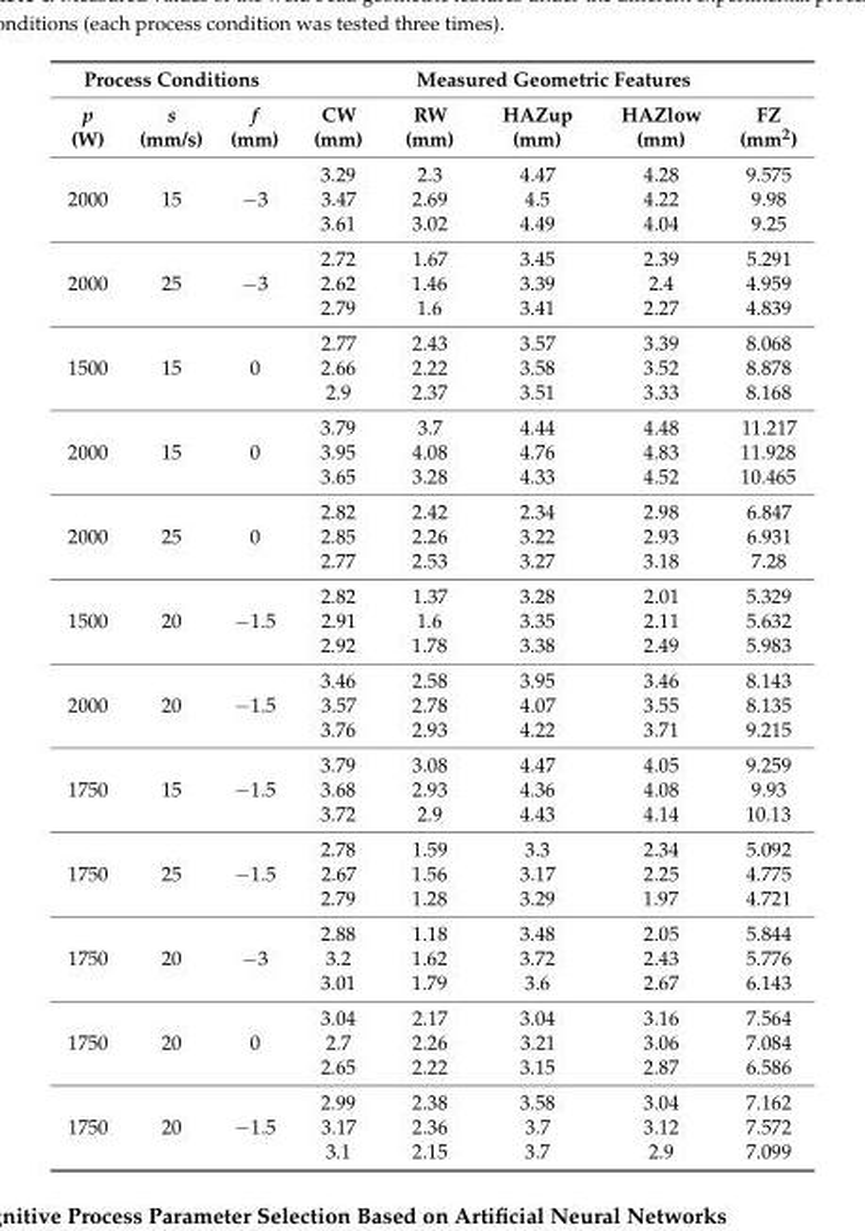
<table><thead><tr><td colspan="3">Process Conditions</td><td colspan="5">Measured Geometric Features</td></tr><tr><td>p (W)</td><td>s (mm/s)</td><td>f (mm)</td><td>CW (mm)</td><td>RW (mm)</td><td>HAZup (mm)</td><td>HAZlow (mm)</td><td>FZ (mm<sup>2</sup>)</td></tr></thead><tbody><tr><td>2000</td><td>15</td><td>−3</td><td>3.29 3.47 3.61</td><td>2.3 2.69 3.02</td><td>4.47 4.5 4.49</td><td>4.28 4.22 4.04</td><td>9.575 9.98 9.25</td></tr><tr><td>2000</td><td>25</td><td>−3</td><td>2.72 2.62 2.79</td><td>1.67 1.46 1.6</td><td>3.45 3.39 3.41</td><td>2.39 2.4 2.27</td><td>5.291 4.959 4.839</td></tr><tr><td>1500</td><td>15</td><td>0</td><td>2.77 2.66 2.9</td><td>2.43 2.22 2.37</td><td>3.57 3.58 3.51</td><td>3.39 3.52 3.33</td><td>8.068 8.878 8.168</td></tr><tr><td>2000</td><td>15</td><td>0</td><td>3.79 3.95 3.65</td><td>3.7 4.08 3.28</td><td>4.44 4.76 4.33</td><td>4.48 4.83 4.52</td><td>11.217 11.928 10.465</td></tr><tr><td>2000</td><td>25</td><td>0</td><td>2.82 2.85 2.77</td><td>2.42 2.26 2.53</td><td>2.34 3.22 3.27</td><td>2.98 2.93 3.18</td><td>6.847 6.931 7.28</td></tr><tr><td>1500</td><td>20</td><td>−1.5</td><td>2.82 2.91 2.92</td><td>1.37 1.6 1.78</td><td>3.28 3.35 3.38</td><td>2.01 2.11 2.49</td><td>5.329 5.632 5.983</td></tr><tr><td>2000</td><td>20</td><td>−1.5</td><td>3.46 3.57 3.76</td><td>2.58 2.78 2.93</td><td>3.95 4.07 4.22</td><td>3.46 3.55 3.71</td><td>8.143 8.135 9.215</td></tr><tr><td>1750</td><td>15</td><td>−1.5</td><td>3.79 3.68 3.72</td><td>3.08 2.93 2.9</td><td>4.47 4.36 4.43</td><td>4.05 4.08 4.14</td><td>9.259 9.93 10.13</td></tr><tr><td>1750</td><td>25</td><td>−1.5</td><td>2.78 2.67 2.79</td><td>1.59 1.56 1.28</td><td>3.3 3.17 3.29</td><td>2.34 2.25 1.97</td><td>5.092 4.775 4.721</td></tr><tr><td>1750</td><td>20</td><td>−3</td><td>2.88 3.2 3.01</td><td>1.18 1.62 1.79</td><td>3.48 3.72 3.6</td><td>2.05 2.43 2.67</td><td>5.844 5.776 6.143</td></tr><tr><td>1750</td><td>20</td><td>0</td><td>3.04 2.7 2.65</td><td>2.17 2.26 2.22</td><td>3.04 3.21 3.15</td><td>3.16 3.06 2.87</td><td>7.564 7.084 6.586</td></tr><tr><td>1750</td><td>20</td><td>−1.5</td><td>2.99 3.17 3.1</td><td>2.38 2.36 2.15</td><td>3.58 3.7 3.7</td><td>3.04 3.12 2.9</td><td>7.162 7.572 7.099</td></tr></tbody></table>